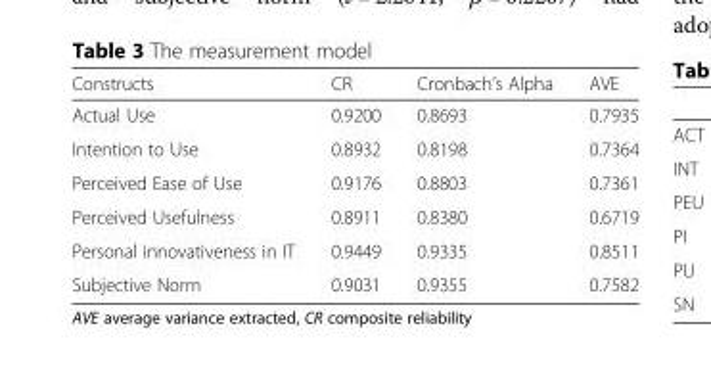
<table><thead><tr><td>Constructs</td><td>CR</td><td>Cronbach’s Alpha</td><td>AVE</td></tr></thead><tbody><tr><td>Actual Use</td><td>0.9200</td><td>0.8693</td><td>0.7935</td></tr><tr><td>Intention to Use</td><td>0.8932</td><td>0.8198</td><td>0.7364</td></tr><tr><td>Perceived Ease of Use</td><td>0.9176</td><td>0.8803</td><td>0.7361</td></tr><tr><td>Perceived Usefulness</td><td>0.8911</td><td>0.8380</td><td>0.6719</td></tr><tr><td>Personal innovativeness in IT</td><td>0.9449</td><td>0.9335</td><td>0.8511</td></tr><tr><td>Subjective Norm</td><td>0.9031</td><td>0.9355</td><td>0.7582</td></tr></tbody></table>